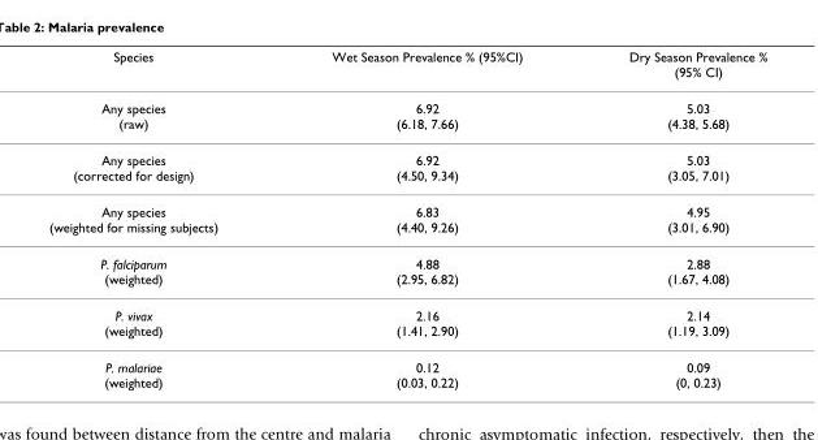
<table><thead><tr><td>Species</td><td>Wet Season Prevalence % (95%CI)</td><td>Dry Season Prevalence % (95% CI)</td></tr></thead><tbody><tr><td>Any species (raw)</td><td>6.92 (6.18, 7.66)</td><td>5.03 (4.38, 5.68)</td></tr><tr><td>Any species (corrected for design)</td><td>6.92 (4.50, 9.34)</td><td>5.03 (3.05, 7.01)</td></tr><tr><td>Any species (weighted for missing subjects)</td><td>6.83 (4.40, 9.26)</td><td>4.95 (3.01, 6.90)</td></tr><tr><td>P. falciparum (weighted)</td><td>4.88 (2.95, 6.82)</td><td>2.88 (1.67, 4.08)</td></tr><tr><td>P. vivax (weighted)</td><td>2.16 (1.41, 2.90)</td><td>2.14 (1.19, 3.09)</td></tr><tr><td>P. malariae (weighted)</td><td>0.12 (0.03, 0.22)</td><td>0.09 (0, 0.23)</td></tr></tbody></table>